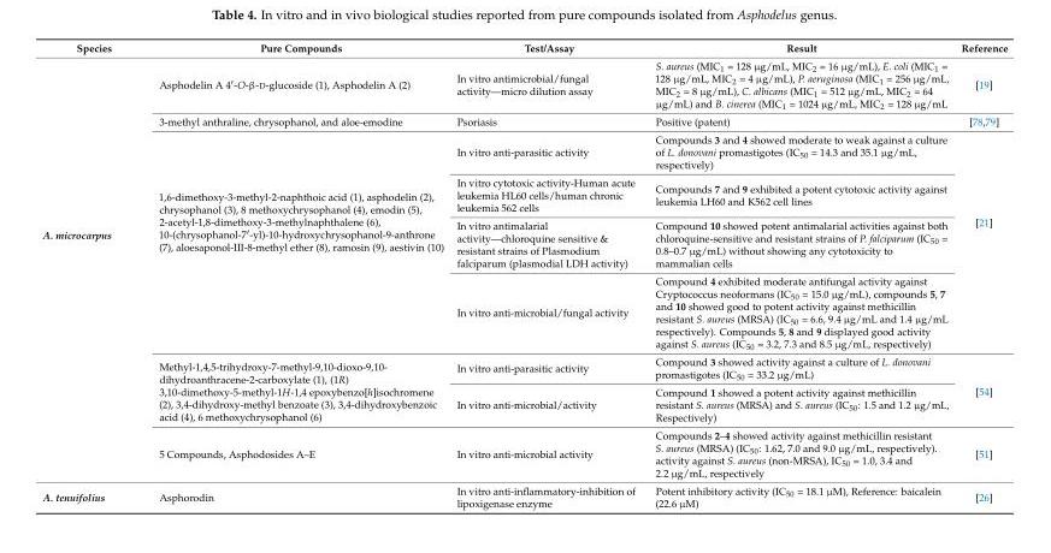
<table><thead><tr><td>Species</td><td>Pure Compounds</td><td>Test/Assay</td><td>Result</td><td>Reference</td></tr></thead><tbody><tr><td rowspan="9">A. microcarpus</td><td>Asphodelin A 4′-O-β-D-glucoside (1), Asphodelin A (2)</td><td>In vitro antimicrobial/fungal activity—micro dilution assay</td><td>S. aureus (MIC<sub>1</sub> = 128 µg/mL, MIC<sub>2</sub> = 16 µg/mL), E. coli (MIC<sub>1</sub> = 128 µg/mL, MIC<sub>2</sub> = 4 µg/mL), P. aeruginosa (MIC<sub>1</sub> = 256 µg/mL, MIC<sub>2</sub> = 8 µg/mL), C. albicans (MIC<sub>1</sub> = 512 µg/mL, MIC<sub>2</sub> = 64 µg/mL) and B. cinerea (MIC<sub>1</sub> = 1024 µg/mL, MIC<sub>2</sub> = 128 µg/mL</td><td>[19]</td></tr><tr><td>3-methyl anthraline, chrysophanol, and aloe-emodine</td><td>Psoriasis</td><td>Positive (patent)</td><td>[78,79]</td></tr><tr><td rowspan="4">1,6-dimethoxy-3-methyl-2-naphthoic acid (1), asphodelin (2), chrysophanol (3), 8 methoxychrysophanol (4), emodin (5), 2-acetyl-1,8-dimethoxy-3-methylnaphthalene (6), 10-(chrysophanol-7′-yl)-10-hydroxychrysophanol-9-anthrone (7), aloesaponol-III-8-methyl ether (8), ramosin (9), aestivin (10)</td><td>In vitro anti-parasitic activity</td><td>Compounds 3 and 4 showed moderate to weak against a culture of L. donovani promastigotes (IC<sub>50</sub> = 14.3 and 35.1 µg/mL, respectively)</td><td rowspan="4">[21]</td></tr><tr><td>In vitro cytotoxic activity-Human acute leukemia HL60 cells/human chronic leukemia 562 cells</td><td>Compounds 7 and 9 exhibited a potent cytotoxic activity against leukemia LH60 and K562 cell lines</td></tr><tr><td>In vitro antimalarial activity—chloroquine sensitive &amp; resistant strains of Plasmodium falciparum (plasmodial LDH activity)</td><td>Compound 10 showed potent antimalarial activities against both chloroquine-sensitive and resistant strains of P. falciparum (IC<sub>50</sub> = 0.8–0.7 µg/mL) without showing any cytotoxicity to mammalian cells</td></tr><tr><td>In vitro anti-microbial/fungal activity</td><td>Compound 4 exhibited moderate antifungal activity against Cryptococcus neoformans (IC<sub>50</sub> = 15.0 µg/mL), compounds 5, 7 and 10 showed good to potent activity against methicillin resistant S. aureus (MRSA) (IC<sub>50</sub> = 6.6, 9.4 µg/mL and 1.4 µg/mL respectively). Compounds 5, 8 and 9 displayed good activity against S. aureus (IC<sub>50</sub> = 3.2, 7.3 and 8.5 µg/mL, respectively)</td></tr><tr><td rowspan="2">Methyl-1,4,5-trihydroxy-7-methyl-9,10-dioxo-9,10- dihydroanthracene-2-carboxylate (1), (1R) 3,10-dimethoxy-5-methyl-1H-1,4 epoxybenzo[h]isochromene (2), 3,4-dihydroxy-methyl benzoate (3), 3,4-dihydroxybenzoic acid (4), 6 methoxychrysophanol (6)</td><td>In vitro anti-parasitic activity</td><td>Compound 3 showed activity against a culture of L. donovani promastigotes (IC<sub>50</sub> = 33.2 µg/mL)</td><td rowspan="2">[54]</td></tr><tr><td>In vitro anti-microbial/activity</td><td>Compound 1 showed a potent activity against methicillin resistant S. aureus (MRSA) and S. aureus (IC<sub>50</sub>: 1.5 and 1.2 µg/mL, Respectively)</td></tr><tr><td>5 Compounds, Asphodosides A–E</td><td>In vitro anti-microbial activity</td><td>Compounds 2–4 showed activity against methicillin resistant S. aureus (MRSA) (IC<sub>50</sub>: 1.62, 7.0 and 9.0 µg/mL, respectively). activity against S. aureus (non-MRSA), IC<sub>50</sub> = 1.0, 3.4 and 2.2 µg/mL, respectively</td><td>[51]</td></tr><tr><td>A. tenuifolius</td><td>Asphorodin</td><td>In vitro anti-inflammatory-inhibition of lipoxigenase enzyme</td><td>Potent inhibitory activity (IC<sub>50</sub> = 18.1 µM), Reference: baicalein (22.6 µM)</td><td>[26]</td></tr></tbody></table>